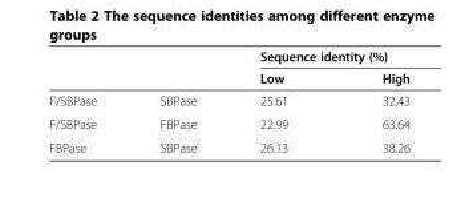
<table><thead><tr><td rowspan="2"></td><td rowspan="2"></td><td colspan="2">Sequence identity (%)</td></tr><tr><td>Low</td><td>High</td></tr></thead><tbody><tr><td>F/SBPase</td><td>SBPase</td><td>25.61</td><td>32.43</td></tr><tr><td>F/SBPase</td><td>FBPase</td><td>22.99</td><td>63.64</td></tr><tr><td>FBPase</td><td>SBPase</td><td>26.13</td><td>38.26</td></tr></tbody></table>